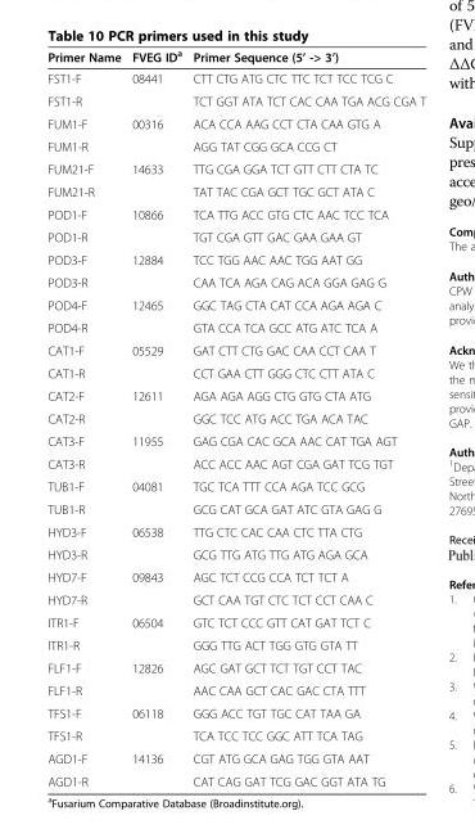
<table><thead><tr><td>Primer Name</td><td>FVEG ID<sup>a</sup></td><td>Primer Sequence (5’ -&gt; 3’)</td></tr></thead><tbody><tr><td>FST1-F</td><td>08441</td><td>CTT CTG ATG CTC TTC TCT TCC TCG C</td></tr><tr><td>FST1-R</td><td></td><td>TCT GGT ATA TCT CAC CAA TGA ACG CGA T</td></tr><tr><td>FUM1-F</td><td>00316</td><td>ACA CCA AAG CCT CTA CAA GTG A</td></tr><tr><td>FUM1-R</td><td></td><td>AGG TAT CGG GCA CCG CT</td></tr><tr><td>FUM21-F</td><td>14633</td><td>TTG CGA GGA TCT GTT CTT CTA TC</td></tr><tr><td>FUM21-R</td><td></td><td>TAT TAC CGA GCT TGC GCT ATA C</td></tr><tr><td>POD1-F</td><td>10866</td><td>TCA TTG ACC GTG CTC AAC TCC TCA</td></tr><tr><td>POD1-R</td><td></td><td>TGT CGA GTT GAC GAA GAA GT</td></tr><tr><td>POD3-F</td><td>12884</td><td>TCC TGG AAC AAC TGG AAT GG</td></tr><tr><td>POD3-R</td><td></td><td>CAA TCA AGA CAG ACA GGA GAG G</td></tr><tr><td>POD4-F</td><td>12465</td><td>GGC TAG CTA CAT CCA AGA AGA C</td></tr><tr><td>POD4-R</td><td></td><td>GTA CCA TCA GCC ATG ATC TCA A</td></tr><tr><td>CAT1-F</td><td>05529</td><td>GAT CTT CTG GAC CAA CCT CAA T</td></tr><tr><td>CAT1-R</td><td></td><td>CCT GAA CTT GGG CTC CTT ATA C</td></tr><tr><td>CAT2-F</td><td>12611</td><td>AGA AGA AGG CTG GTG CTA ATG</td></tr><tr><td>CAT2-R</td><td></td><td>GGC TCC ATG ACC TGA ACA TAC</td></tr><tr><td>CAT3-F</td><td>11955</td><td>GAG CGA CAC GCA AAC CAT TGA AGT</td></tr><tr><td>CAT3-R</td><td></td><td>ACC ACC AAC AGT CGA GAT TCG TGT</td></tr><tr><td>TUB1-F</td><td>04081</td><td>TGC TCA TTT CCA AGA TCC GCG</td></tr><tr><td>TUB1-R</td><td></td><td>GCG CAT GCA GAT ATC GTA GAG G</td></tr><tr><td>HYD3-F</td><td>06538</td><td>TTG CTC CAC CAA CTC TTA CTG</td></tr><tr><td>HYD3-R</td><td></td><td>GCG TTG ATG TTG ATG AGA GCA</td></tr><tr><td>HYD7-F</td><td>09843</td><td>AGC TCT CCG CCA TCT TCT A</td></tr><tr><td>HYD7-R</td><td></td><td>GCT CAA TGT CTC TCT CCT CAA C</td></tr><tr><td>ITR1-F</td><td>06504</td><td>GTC TCT CCC GTT CAT GAT TCT C</td></tr><tr><td>ITR1-R</td><td></td><td>GGG TTG ACT TGG GTG GTA TT</td></tr><tr><td>FLF1-F</td><td>12826</td><td>AGC GAT GCT TCT TGT CCT TAC</td></tr><tr><td>FLF1-R</td><td></td><td>AAC CAA GCT CAC GAC CTA TTT</td></tr><tr><td>TFS1-F</td><td>06118</td><td>GGG ACC TGT TGC CAT TAA GA</td></tr><tr><td>TFS1-R</td><td></td><td>TCA TCC TCC GGC ATT TCA TAG</td></tr><tr><td>AGD1-F</td><td>14136</td><td>CGT ATG GCA GAG TGG GTA AAT</td></tr><tr><td>AGD1-R</td><td></td><td>CAT CAG GAT TCG GAC GGT ATA TG</td></tr></tbody></table>